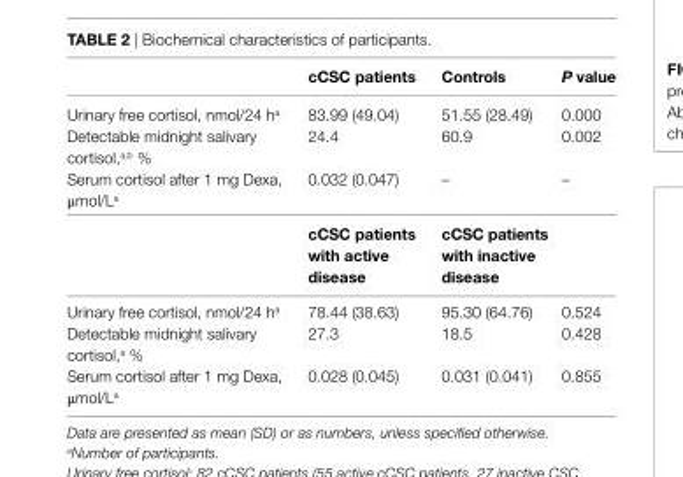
<table><thead><tr><td></td><td>ccsc patients</td><td>controls</td><td>P value</td></tr></thead><tbody><tr><td>Urinary free cortisol, nmol/24 h<sup>a</sup></td><td>83.99 (49.04)</td><td>51.55 (28.49)</td><td>0.000</td></tr><tr><td>Detectable midnight salivary cortisol,<sup>a,b</sup> %</td><td>24.4</td><td>60.9</td><td>0.002</td></tr><tr><td rowspan="2">Serum cortisol after 1 mg Dexa, μmol/L<sup>a</sup></td><td>0.032 (0.047)</td><td>–</td><td>–</td></tr><tr><td>ccsc patients with active disease</td><td>ccsc patients with inactive disease</td><td></td></tr><tr><td>Urinary free cortisol, nmol/24 h<sup>a</sup></td><td>78.44 (38.63)</td><td>95.30 (64.76)</td><td>0.524</td></tr><tr><td>Detectable midnight salivary cortisol,<sup>a</sup> %</td><td>27.3</td><td>18.5</td><td>0.428</td></tr><tr><td>Serum cortisol after 1 mg Dexa, μmol/L<sup>a</sup></td><td>0.028 (0.045)</td><td>0.031 (0.041)</td><td>0.855</td></tr></tbody></table>